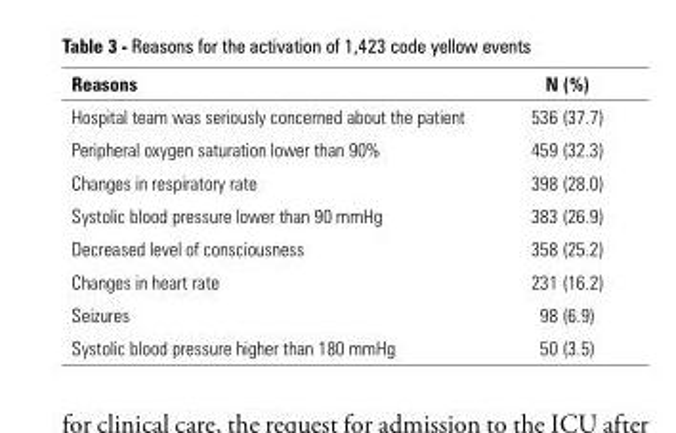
<table><thead><tr><td>Reasons</td><td>N (%)</td></tr></thead><tbody><tr><td>Hospital team was seriously concerned about the patient</td><td>536 (37.7)</td></tr><tr><td>Peripheral oxygen saturation lower than 90%</td><td>459 (32.3)</td></tr><tr><td>Changes in respiratory rate</td><td>398 (28.0)</td></tr><tr><td>Systolic blood pressure lower than 90 mmHg</td><td>383 (26.9)</td></tr><tr><td>Decreased level of consciousness</td><td>358 (25.2)</td></tr><tr><td>Changes in heart rate</td><td>231 (16.2)</td></tr><tr><td>Seizures</td><td>98 (6.9)</td></tr><tr><td>Systolic blood pressure higher than 180 mmHg</td><td>50 (3.5)</td></tr></tbody></table>